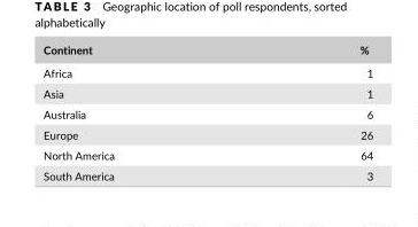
<table><thead><tr><td>Continent</td><td>%</td></tr></thead><tbody><tr><td>Africa</td><td>1</td></tr><tr><td>Asia</td><td>1</td></tr><tr><td>Australia</td><td>6</td></tr><tr><td>Europe</td><td>26</td></tr><tr><td>North America</td><td>64</td></tr><tr><td>South America</td><td>3</td></tr></tbody></table>